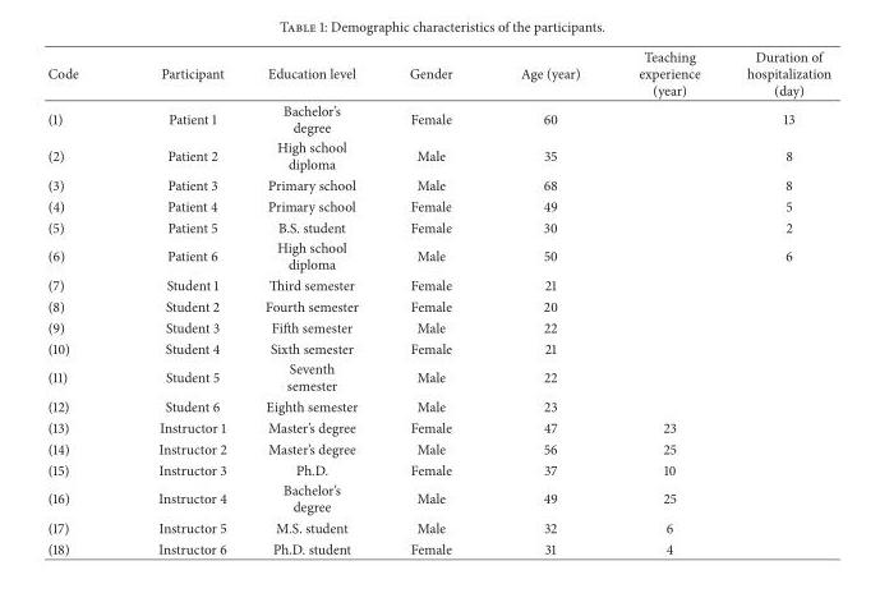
<table><thead><tr><td>Code</td><td>Participant</td><td>Education level</td><td>Gender</td><td>Age (year)</td><td>Teaching experience (year)</td><td>Duration of hospitalization (day)</td></tr></thead><tbody><tr><td>(1)</td><td>Patient 1</td><td>Bachelor’s degree</td><td>Female</td><td>60</td><td></td><td>13</td></tr><tr><td>(2)</td><td>Patient 2</td><td>High school diploma</td><td>Male</td><td>35</td><td></td><td>8</td></tr><tr><td>(3)</td><td>Patient 3</td><td>Primary school</td><td>Male</td><td>68</td><td></td><td>8</td></tr><tr><td>(4)</td><td>Patient 4</td><td>Primary school</td><td>Female</td><td>49</td><td></td><td>5</td></tr><tr><td>(5)</td><td>Patient 5</td><td>B.S. student</td><td>Female</td><td>30</td><td></td><td>2</td></tr><tr><td>(6)</td><td>Patient 6</td><td>High school diploma</td><td>Male</td><td>50</td><td></td><td>6</td></tr><tr><td>(7)</td><td>Student 1</td><td>Third semester</td><td>Female</td><td>21</td><td></td><td></td></tr><tr><td>(8)</td><td>Student 2</td><td>Fourth semester</td><td>Female</td><td>20</td><td></td><td></td></tr><tr><td>(9)</td><td>Student 3</td><td>Fifth semester</td><td>Male</td><td>22</td><td></td><td></td></tr><tr><td>(10)</td><td>Student 4</td><td>Sixth semester</td><td>Female</td><td>21</td><td></td><td></td></tr><tr><td>(11)</td><td>Student 5</td><td>Seventh semester</td><td>Male</td><td>22</td><td></td><td></td></tr><tr><td>(12)</td><td>Student 6</td><td>Eighth semester</td><td>Male</td><td>23</td><td></td><td></td></tr><tr><td>(13)</td><td>Instructor 1</td><td>Master’s degree</td><td>Female</td><td>47</td><td>23</td><td></td></tr><tr><td>(14)</td><td>Instructor 2</td><td>Master’s degree</td><td>Male</td><td>56</td><td>25</td><td></td></tr><tr><td>(15)</td><td>Instructor 3</td><td>Ph.D.</td><td>Female</td><td>37</td><td>10</td><td></td></tr><tr><td>(16)</td><td>Instructor 4</td><td>Bachelor’s degree</td><td>Male</td><td>49</td><td>25</td><td></td></tr><tr><td>(17)</td><td>Instructor 5</td><td>M.S. student</td><td>Male</td><td>32</td><td>6</td><td></td></tr><tr><td>(18)</td><td>Instructor 6</td><td>Ph.D. student</td><td>Female</td><td>31</td><td>4</td><td></td></tr></tbody></table>